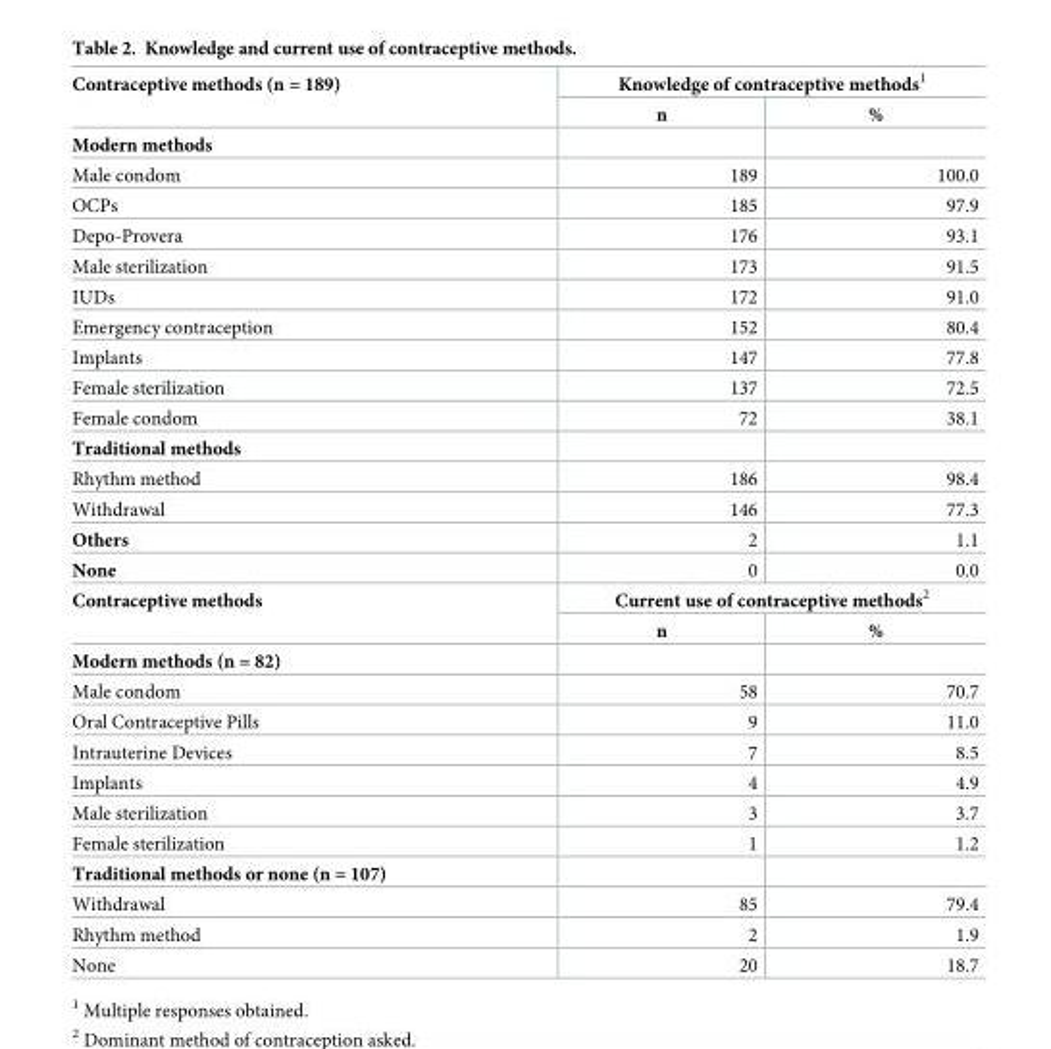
<table><tbody><tr><td rowspan="2">Contraceptive methods (n = 189)</td><td colspan="2">Knowledge of contraceptive methods<sup>1</sup></td></tr><tr><td>n</td><td>%</td></tr><tr><td colspan="3">Modern methods</td></tr><tr><td>Male condom</td><td>189</td><td>100.0</td></tr><tr><td>OCPs</td><td>185</td><td>97.9</td></tr><tr><td>Depo-Provera</td><td>176</td><td>93.1</td></tr><tr><td>Male sterilization</td><td>173</td><td>91.5</td></tr><tr><td>IUDs</td><td>172</td><td>91.0</td></tr><tr><td>Emergency contraception</td><td>152</td><td>80.4</td></tr><tr><td>Implants</td><td>147</td><td>77.8</td></tr><tr><td>Female sterilization</td><td>137</td><td>72.5</td></tr><tr><td>Female condom</td><td>72</td><td>38.1</td></tr><tr><td colspan="3">Traditional methods</td></tr><tr><td>Rhythm method</td><td>186</td><td>98.4</td></tr><tr><td>Withdrawal</td><td>146</td><td>77.3</td></tr><tr><td>Others</td><td>2</td><td>1.1</td></tr><tr><td>None</td><td>0</td><td>0.0</td></tr><tr><td rowspan="2">Contraceptive methods</td><td colspan="2">Current use of contraceptive methods<sup>2</sup></td></tr><tr><td>n</td><td>%</td></tr><tr><td colspan="3">Modern methods (n = 82)</td></tr><tr><td>Male condom</td><td>58</td><td>70.7</td></tr><tr><td>Oral Contraceptive Pills</td><td>9</td><td>11.0</td></tr><tr><td>Intrauterine Devices</td><td>7</td><td>8.5</td></tr><tr><td>Implants</td><td>4</td><td>4.9</td></tr><tr><td>Male sterilization</td><td>3</td><td>3.7</td></tr><tr><td>Female sterilization</td><td>1</td><td>1.2</td></tr><tr><td colspan="3">Traditional methods or none (n = 107)</td></tr><tr><td>Withdrawal</td><td>85</td><td>79.4</td></tr><tr><td>Rhythm method</td><td>2</td><td>1.9</td></tr><tr><td>None</td><td>20</td><td>18.7</td></tr></tbody></table>